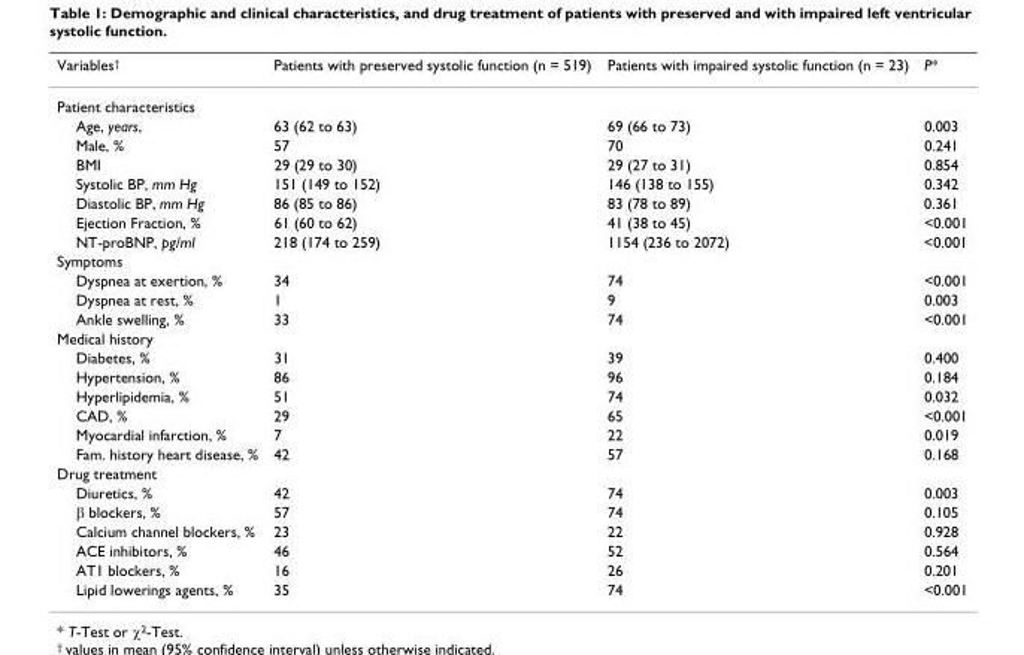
<table><thead><tr><td>Variables<sup>†</sup></td><td>Patients with preserved systolic function (n = 519)</td><td>Patients with impaired systolic function (n = 23)</td><td>P*</td></tr></thead><tbody><tr><td colspan="4">Patient characteristics</td></tr><tr><td>Age, years,</td><td>63 (62 to 63)</td><td>69 (66 to 73)</td><td>0.003</td></tr><tr><td>Male, %</td><td>57</td><td>70</td><td>0.241</td></tr><tr><td>BMI</td><td>29 (29 to 30)</td><td>29 (27 to 31)</td><td>0.854</td></tr><tr><td>Systolic BP, mm Hg</td><td>151 (149 to 152)</td><td>146 (138 to 155)</td><td>0.342</td></tr><tr><td>Diastolic BP, mm Hg</td><td>86 (85 to 86)</td><td>83 (78 to 89)</td><td>0.361</td></tr><tr><td>Ejection Fraction, %</td><td>61 (60 to 62)</td><td>41 (38 to 45)</td><td>&lt;0.001</td></tr><tr><td>NT-proBNP, pg/ml</td><td>218 (174 to 259)</td><td>1154 (236 to 2072)</td><td>&lt;0.001</td></tr><tr><td colspan="4">Symptoms</td></tr><tr><td>Dyspnea at exertion, %</td><td>34</td><td>74</td><td>&lt;0.001</td></tr><tr><td>Dyspnea at rest, %</td><td>1</td><td>9</td><td>0.003</td></tr><tr><td>Ankle swelling, %</td><td>33</td><td>74</td><td>&lt;0.001</td></tr><tr><td colspan="4">Medical history</td></tr><tr><td>Diabetes, %</td><td>31</td><td>39</td><td>0.400</td></tr><tr><td>Hypertension, %</td><td>86</td><td>96</td><td>0.184</td></tr><tr><td>Hyperlipidemia, %</td><td>51</td><td>74</td><td>0.032</td></tr><tr><td>CAD, %</td><td>29</td><td>65</td><td>&lt;0.001</td></tr><tr><td>Myocardial infarction, %</td><td>7</td><td>22</td><td>0.019</td></tr><tr><td>Fam. history heart disease, %</td><td>42</td><td>57</td><td>0.168</td></tr><tr><td colspan="4">Drug treatment</td></tr><tr><td>Diuretics, %</td><td>42</td><td>74</td><td>0.003</td></tr><tr><td>β blockers, %</td><td>57</td><td>74</td><td>0.105</td></tr><tr><td>Calcium channel blockers, %</td><td>23</td><td>22</td><td>0.928</td></tr><tr><td>ACE inhibitors, %</td><td>46</td><td>52</td><td>0.564</td></tr><tr><td>AT1 blockers, %</td><td>16</td><td>26</td><td>0.201</td></tr><tr><td>Lipid lowerings agents, %</td><td>35</td><td>74</td><td>&lt;0.001</td></tr></tbody></table>